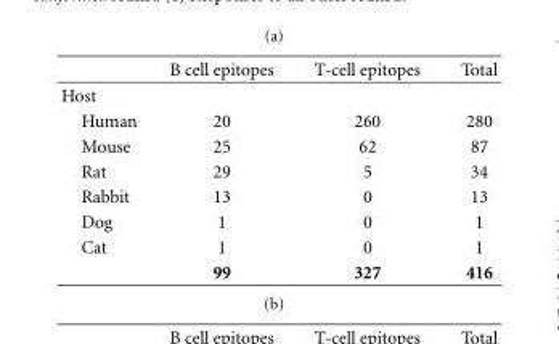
<table><thead><tr><td></td><td>B cell epitopes</td><td>T-cell epitopes</td><td>Total</td></tr></thead><tbody><tr><td colspan="4">Host</td></tr><tr><td>Human</td><td>20</td><td>260</td><td>280</td></tr><tr><td>Mouse</td><td>25</td><td>62</td><td>87</td></tr><tr><td>Rat</td><td>29</td><td>5</td><td>34</td></tr><tr><td>Rabbit</td><td>13</td><td>0</td><td>13</td></tr><tr><td>Dog</td><td>1</td><td>0</td><td>1</td></tr><tr><td rowspan="2">Cat</td><td>1</td><td>0</td><td>1</td></tr><tr><td>99</td><td>327</td><td>416</td></tr></tbody></table>